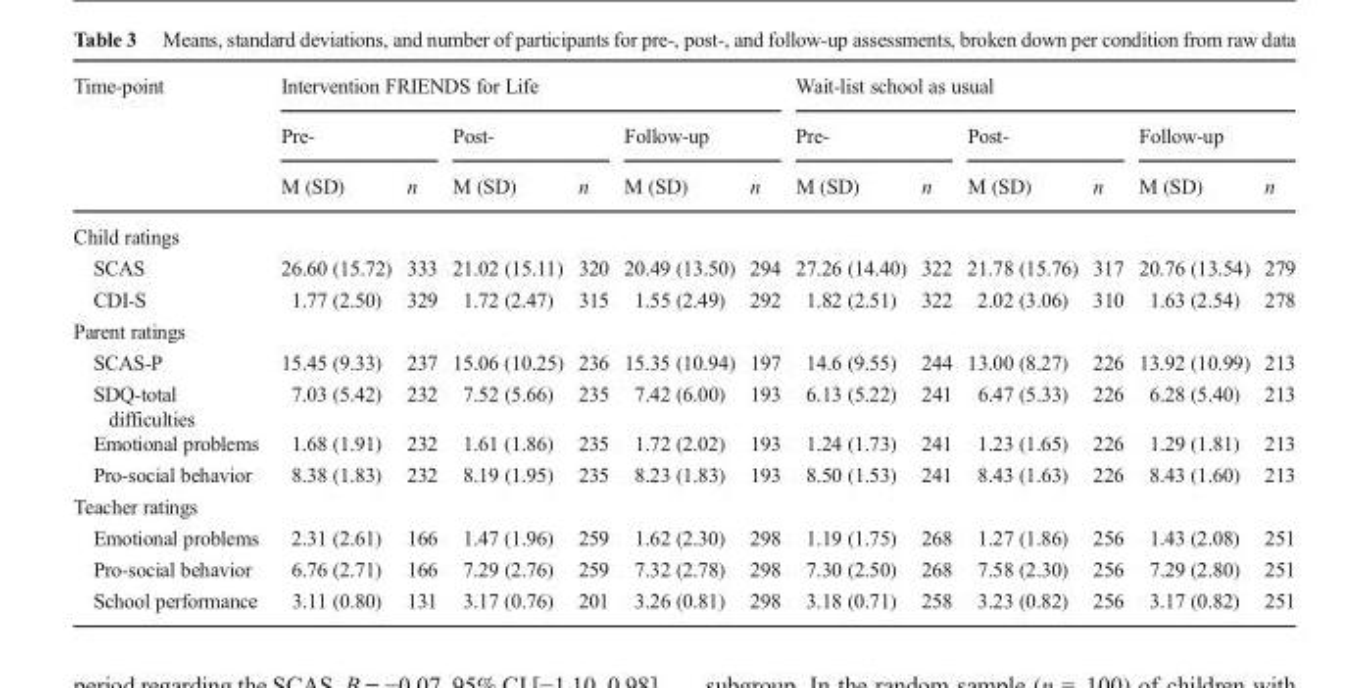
<table><thead><tr><td rowspan="3">Time-point</td><td colspan="6">Intervention FRIENDS for Life</td><td colspan="6">Wait-list school as usual</td></tr><tr><td colspan="2">Pre-</td><td colspan="2">Post-</td><td colspan="2">Follow-up</td><td colspan="2">Pre-</td><td colspan="2">Post-</td><td colspan="2">Follow-up</td></tr><tr><td>M (SD)</td><td>n</td><td>M (SD)</td><td>n</td><td>M (SD)</td><td>n</td><td>M (SD)</td><td>n</td><td>M (SD)</td><td>n</td><td>M (SD)</td><td>n</td></tr></thead><tbody><tr><td colspan="13">Child ratings</td></tr><tr><td>SCAS</td><td>26.60 (15.72)</td><td>333</td><td>21.02 (15.11)</td><td>320</td><td>20.49 (13.50)</td><td>294</td><td>27.26 (14.40)</td><td>322</td><td>21.78 (15.76)</td><td>317</td><td>20.76 (13.54)</td><td>279</td></tr><tr><td>CDI-S</td><td>1.77 (2.50)</td><td>329</td><td>1.72 (2.47)</td><td>315</td><td>1.55 (2.49)</td><td>292</td><td>1.82 (2.51)</td><td>322</td><td>2.02 (3.06)</td><td>310</td><td>1.63 (2.54)</td><td>278</td></tr><tr><td colspan="13">Parent ratings</td></tr><tr><td>SCAS-P</td><td>15.45 (9.33)</td><td>237</td><td>15.06 (10.25)</td><td>236</td><td>15.35 (10.94)</td><td>197</td><td>14.6 (9.55)</td><td>244</td><td>13.00 (8.27)</td><td>226</td><td>13.92 (10.99)</td><td>213</td></tr><tr><td>SDQ-total difficulties</td><td>7.03 (5.42)</td><td>232</td><td>7.52 (5.66)</td><td>235</td><td>7.42 (6.00)</td><td>193</td><td>6.13 (5.22)</td><td>241</td><td>6.47 (5.33)</td><td>226</td><td>6.28 (5.40)</td><td>213</td></tr><tr><td>Emotional problems</td><td>1.68 (1.91)</td><td>232</td><td>1.61 (1.86)</td><td>235</td><td>1.72 (2.02)</td><td>193</td><td>1.24 (1.73)</td><td>241</td><td>1.23 (1.65)</td><td>226</td><td>1.29 (1.81)</td><td>213</td></tr><tr><td>Pro-social behavior</td><td>8.38 (1.83)</td><td>232</td><td>8.19 (1.95)</td><td>235</td><td>8.23 (1.83)</td><td>193</td><td>8.50 (1.53)</td><td>241</td><td>8.43 (1.63)</td><td>226</td><td>8.43 (1.60)</td><td>213</td></tr><tr><td colspan="13">Teacher ratings</td></tr><tr><td>Emotional problems</td><td>2.31 (2.61)</td><td>166</td><td>1.47 (1.96)</td><td>259</td><td>1.62 (2.30)</td><td>298</td><td>1.19 (1.75)</td><td>268</td><td>1.27 (1.86)</td><td>256</td><td>1.43 (2.08)</td><td>251</td></tr><tr><td>Pro-social behavior</td><td>6.76 (2.71)</td><td>166</td><td>7.29 (2.76)</td><td>259</td><td>7.32 (2.78)</td><td>298</td><td>7.30 (2.50)</td><td>268</td><td>7.58 (2.30)</td><td>256</td><td>7.29 (2.80)</td><td>251</td></tr><tr><td>School performance</td><td>3.11 (0.80)</td><td>131</td><td>3.17 (0.76)</td><td>201</td><td>3.26 (0.81)</td><td>298</td><td>3.18 (0.71)</td><td>258</td><td>3.23 (0.82)</td><td>256</td><td>3.17 (0.82)</td><td>251</td></tr></tbody></table>